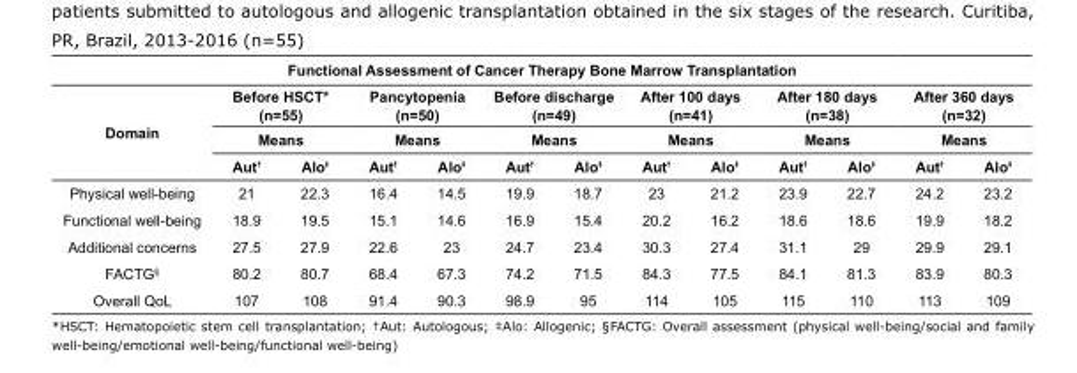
<table><tbody><tr><td colspan="13">Functional Assessment of Cancer Therapy Bone Marrow Transplantation</td></tr><tr><td rowspan="3">Domain</td><td colspan="2">Before HSCT* (n=55)</td><td colspan="2">Pancytopenia (n=50)</td><td colspan="2">Before discharge (n=49)</td><td colspan="2">After 100 days (n=41)</td><td colspan="2">After 180 days (n=38)</td><td colspan="2">After 360 days (n=32)</td></tr><tr><td colspan="2">Means</td><td colspan="2">Means</td><td colspan="2">Means</td><td colspan="2">Means</td><td colspan="2">Means</td><td colspan="2">Means</td></tr><tr><td>Aut<sup>†</sup></td><td>Alo<sup>‡</sup></td><td>Aut<sup>†</sup></td><td>Alo<sup>‡</sup></td><td>Aut<sup>†</sup></td><td>Alo<sup>‡</sup></td><td>Aut<sup>†</sup></td><td>Alo<sup>‡</sup></td><td>Aut<sup>†</sup></td><td>Alo<sup>‡</sup></td><td>Aut<sup>†</sup></td><td>Alo<sup>‡</sup></td></tr><tr><td>Physical well-being</td><td>21</td><td>22.3</td><td>16.4</td><td>14.5</td><td>19.9</td><td>18.7</td><td>23</td><td>21.2</td><td>23.9</td><td>22.7</td><td>24.2</td><td>23.2</td></tr><tr><td>Functional well-being</td><td>18.9</td><td>19.5</td><td>15.1</td><td>14.6</td><td>16.9</td><td>15.4</td><td>20.2</td><td>16.2</td><td>18.6</td><td>18.6</td><td>19.9</td><td>18.2</td></tr><tr><td>Additional concerns</td><td>27.5</td><td>27.9</td><td>22.6</td><td>23</td><td>24.7</td><td>23.4</td><td>30.3</td><td>27.4</td><td>31.1</td><td>29</td><td>29.9</td><td>29.1</td></tr><tr><td>FACTG<sup>§</sup></td><td>80.2</td><td>80.7</td><td>68.4</td><td>67.3</td><td>74.2</td><td>71.5</td><td>84.3</td><td>77.5</td><td>84.1</td><td>81.3</td><td>83.9</td><td>80.3</td></tr><tr><td>Overall QoL</td><td>107</td><td>108</td><td>91.4</td><td>90.3</td><td>98.9</td><td>95</td><td>114</td><td>105</td><td>115</td><td>110</td><td>113</td><td>109</td></tr></tbody></table>